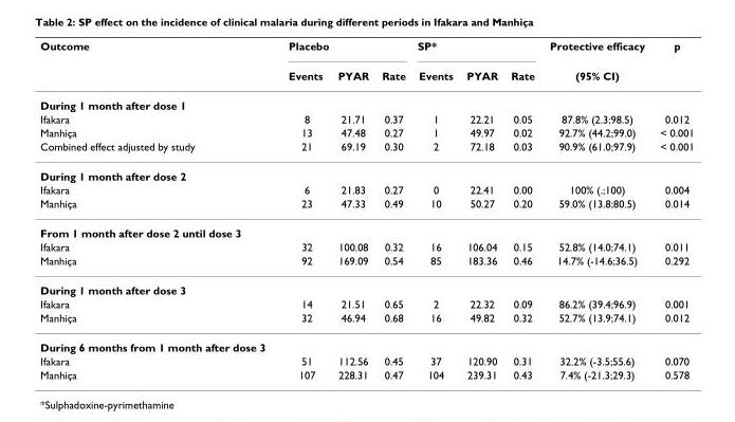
<table><thead><tr><td rowspan="2">Outcome</td><td colspan="3">Placebo</td><td colspan="3">SP*</td><td rowspan="2">Protective efficacy (95% CI)</td><td rowspan="2">p</td></tr><tr><td>Events</td><td>PYAR</td><td>Rate</td><td>Events</td><td>PYAR</td><td>Rate</td></tr></thead><tbody><tr><td colspan="9">During 1 month after dose 1</td></tr><tr><td>Ifakara</td><td>8</td><td>21.71</td><td>0.37</td><td>1</td><td>22.21</td><td>0.05</td><td>87.8% (2.3;98.5)</td><td>0.012</td></tr><tr><td>Manhiça</td><td>13</td><td>47.48</td><td>0.27</td><td>1</td><td>49.97</td><td>0.02</td><td>92.7% (44.2;99.0)</td><td>&lt; 0.001</td></tr><tr><td>Combined effect adjusted by study</td><td>21</td><td>69.19</td><td>0.30</td><td>2</td><td>72.18</td><td>0.03</td><td>90.9% (61.0;97.9)</td><td>&lt; 0.001</td></tr><tr><td colspan="9">During 1 month after dose 2</td></tr><tr><td>Ifakara</td><td>6</td><td>21.83</td><td>0.27</td><td>0</td><td>22.41</td><td>0.00</td><td>100% (.;100)</td><td>0.004</td></tr><tr><td>Manhiça</td><td>23</td><td>47.33</td><td>0.49</td><td>10</td><td>50.27</td><td>0.20</td><td>59.0% (13.8;80.5)</td><td>0.014</td></tr><tr><td colspan="9">From 1 month after dose 2 until dose 3</td></tr><tr><td>Ifakara</td><td>32</td><td>100.08</td><td>0.32</td><td>16</td><td>106.04</td><td>0.15</td><td>52.8% (14.0;74.1)</td><td>0.011</td></tr><tr><td>Manhiça</td><td>92</td><td>169.09</td><td>0.54</td><td>85</td><td>183.36</td><td>0.46</td><td>14.7% (-14.6;36.5)</td><td>0.292</td></tr><tr><td colspan="9">During 1 month after dose 3</td></tr><tr><td>Ifakara</td><td>14</td><td>21.51</td><td>0.65</td><td>2</td><td>22.32</td><td>0.09</td><td>86.2% (39.4;96.9)</td><td>0.001</td></tr><tr><td>Manhiça</td><td>32</td><td>46.94</td><td>0.68</td><td>16</td><td>49.82</td><td>0.32</td><td>52.7% (13.9;74.1)</td><td>0.012</td></tr><tr><td colspan="9">During 6 months from 1 month after dose 3</td></tr><tr><td>Ifakara</td><td>51</td><td>112.56</td><td>0.45</td><td>37</td><td>120.90</td><td>0.31</td><td>32.2% (-3.5;55.6)</td><td>0.070</td></tr><tr><td>Manhiça</td><td>107</td><td>228.31</td><td>0.47</td><td>104</td><td>239.31</td><td>0.43</td><td>7.4% (-21.3;29.3)</td><td>0.578</td></tr></tbody></table>